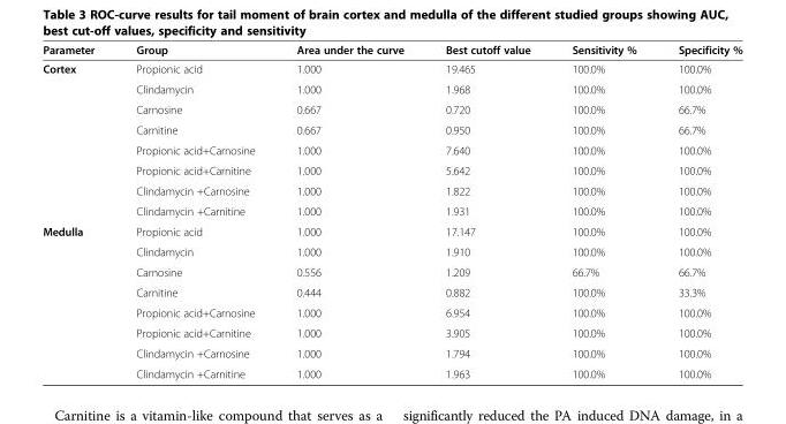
<table><thead><tr><td>Parameter</td><td>Group</td><td>Area under the curve</td><td>Best cutoff value</td><td>Sensitivity %</td><td>Specificity %</td></tr></thead><tbody><tr><td rowspan="8">Cortex</td><td>Propionic acid</td><td>1.000</td><td>19.465</td><td>100.0%</td><td>100.0%</td></tr><tr><td>Clindamycin</td><td>1.000</td><td>1.968</td><td>100.0%</td><td>100.0%</td></tr><tr><td>Carnosine</td><td>0.667</td><td>0.720</td><td>100.0%</td><td>66.7%</td></tr><tr><td>Carnitine</td><td>0.667</td><td>0.950</td><td>100.0%</td><td>66.7%</td></tr><tr><td>Propionic acid+Carnosine</td><td>1.000</td><td>7.640</td><td>100.0%</td><td>100.0%</td></tr><tr><td>Propionic acid+Carnitine</td><td>1.000</td><td>5.642</td><td>100.0%</td><td>100.0%</td></tr><tr><td>Clindamycin +Carnosine</td><td>1.000</td><td>1.822</td><td>100.0%</td><td>100.0%</td></tr><tr><td>Clindamycin +Carnitine</td><td>1.000</td><td>1.931</td><td>100.0%</td><td>100.0%</td></tr><tr><td rowspan="8">Medulla</td><td>Propionic acid</td><td>1.000</td><td>17.147</td><td>100.0%</td><td>100.0%</td></tr><tr><td>Clindamycin</td><td>1.000</td><td>1.910</td><td>100.0%</td><td>100.0%</td></tr><tr><td>Carnosine</td><td>0.556</td><td>1.209</td><td>66.7%</td><td>66.7%</td></tr><tr><td>Carnitine</td><td>0.444</td><td>0.882</td><td>100.0%</td><td>33.3%</td></tr><tr><td>Propionic acid+Carnosine</td><td>1.000</td><td>6.954</td><td>100.0%</td><td>100.0%</td></tr><tr><td>Propionic acid+Carnitine</td><td>1.000</td><td>3.905</td><td>100.0%</td><td>100.0%</td></tr><tr><td>Clindamycin +Carnosine</td><td>1.000</td><td>1.794</td><td>100.0%</td><td>100.0%</td></tr><tr><td>Clindamycin +Carnitine</td><td>1.000</td><td>1.963</td><td>100.0%</td><td>100.0%</td></tr></tbody></table>